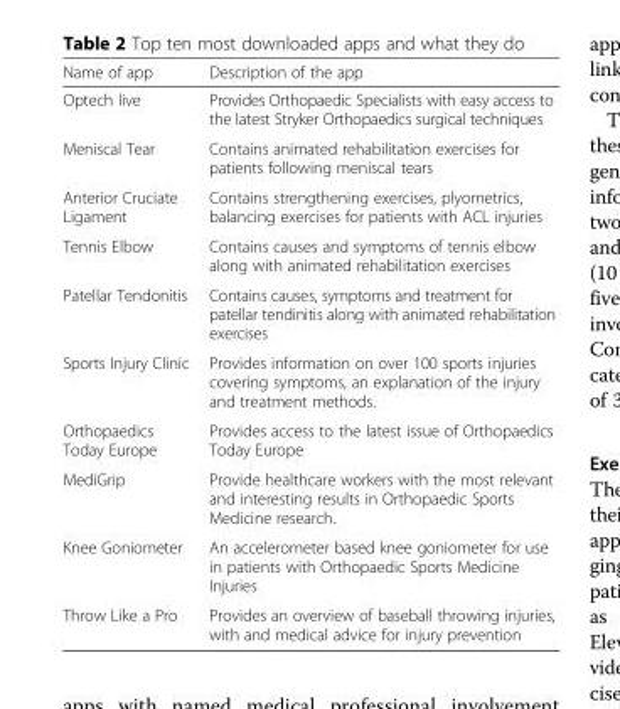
<table><thead><tr><td>Name of app</td><td>Description of the app</td></tr></thead><tbody><tr><td>Optech live</td><td>Provides Orthopaedic Specialists with easy access to the latest Stryker Orthopaedics surgical techniques</td></tr><tr><td>Meniscal Tear</td><td>Contains animated rehabilitation exercises for patients following meniscal tears</td></tr><tr><td>Anterior Cruciate Ligament</td><td>Contains strengthening exercises, plyometrics, balancing exercises for patients with ACL injuries</td></tr><tr><td>Tennis Elbow</td><td>Contains causes and symptoms of tennis elbow along with animated rehabilitation exercises</td></tr><tr><td>Patellar Tendonitis</td><td>Contains causes, symptoms and treatment for patellar tendinitis along with animated rehabilitation exercises</td></tr><tr><td>Sports Injury Clinic</td><td>Provides information on over 100 sports injuries covering symptoms, an explanation of the injury and treatment methods.</td></tr><tr><td>Orthopaedics Today Europe</td><td>Provides access to the latest issue of Orthopaedics Today Europe</td></tr><tr><td>MediGrip</td><td>Provide healthcare workers with the most relevant and interesting results in Orthopaedic Sports Medicine research.</td></tr><tr><td>Knee Goniometer</td><td>An accelerometer based knee goniometer for use in patients with Orthopaedic Sports Medicine Injuries</td></tr><tr><td>Throw Like a Pro</td><td>Provides an overview of baseball throwing injuries, with and medical advice for injury prevention</td></tr></tbody></table>